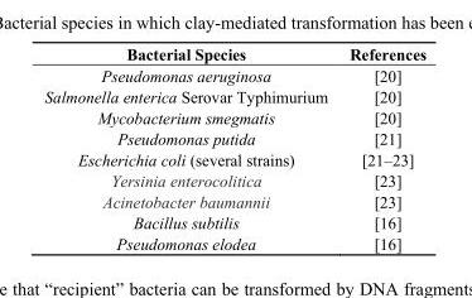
<table><thead><tr><td>Bacterial Species</td><td>References</td></tr></thead><tbody><tr><td>Pseudomonas aeruginosa</td><td>[20]</td></tr><tr><td>Salmonella enterica Serovar Typhimurium</td><td>[20]</td></tr><tr><td>Mycobacterium smegmatis</td><td>[20]</td></tr><tr><td>Pseudomonas putida</td><td>[21]</td></tr><tr><td>Escherichia coli (several strains)</td><td>[21–23]</td></tr><tr><td>Yersinia enterocolitica</td><td>[23]</td></tr><tr><td>Acinetobacter baumannii</td><td>[23]</td></tr><tr><td>Bacillus subtilis</td><td>[16]</td></tr><tr><td>Pseudomonas elodea</td><td>[16]</td></tr></tbody></table>